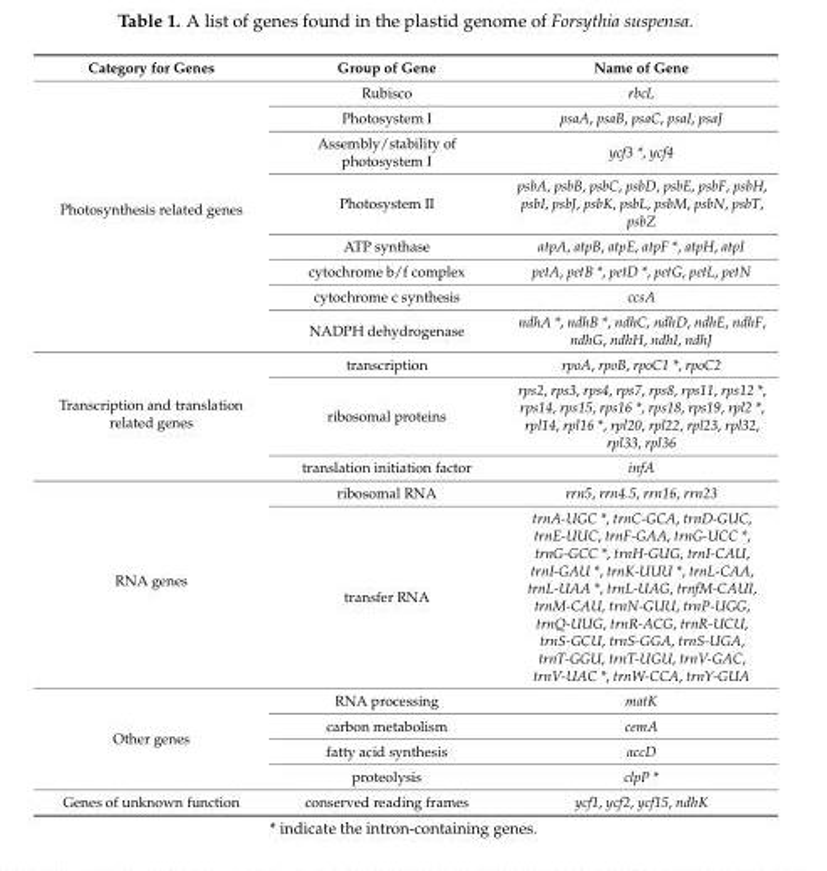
<table><thead><tr><td>Category for Genes</td><td>Group of Gene</td><td>Name of Gene</td></tr></thead><tbody><tr><td rowspan="8">Photosynthesis related genes</td><td>Rubisco</td><td>rbcL</td></tr><tr><td>Photosystem I</td><td>psaA, psaB, psaC, psaI, psaJ</td></tr><tr><td>Assembly/stability of photosystem I</td><td>ycf3 *, ycf4</td></tr><tr><td>Photosystem II</td><td>psbA, psbB, psbC, psbD, psbE, psbF, psbH, psbI, psbJ, psbK, psbL, psbM, psbN, psbT, psbZ</td></tr><tr><td>ATP synthase</td><td>atpA, atpB, atpE, atpF *, atpH, atpI</td></tr><tr><td>cytochrome b/f complex</td><td>petA, petB *, petD *, petG, petL, petN</td></tr><tr><td>cytochrome c synthesis</td><td>ccsA</td></tr><tr><td>NADPH dehydrogenase</td><td>ndhA *, ndhB *, ndhC, ndhD, ndhE, ndhF, ndhG, ndhH, ndhI, ndhJ</td></tr><tr><td rowspan="3">Transcription and translation related genes</td><td>transcription</td><td>rpoA, rpoB, rpoC1 *, rpoC2</td></tr><tr><td>ribosomal proteins</td><td>rps2, rps3, rps4, rps7, rps8, rps11, rps12 *, rps14, rps15, rps16 *, rps18, rps19, rpl2 *, rpl14, rpl16 *, rpl20, rpl22, rpl23, rpl32, rpl33, rpl36</td></tr><tr><td>translation initiation factor</td><td>infA</td></tr><tr><td rowspan="2">RNA genes</td><td>ribosomal RNA</td><td>rrn5, rrn4.5, rrn16, rrn23</td></tr><tr><td>transfer RNA</td><td>trnA-UGC *, trnC-GCA, trnD-GUC, trnE-UUC, trnF-GAA, trnG-UCC *, trnG-GCC *, trnH-GUG, trnI-CAU, trnI-GAU *, trnK-UUU *, trnL-CAA, trnL-UAA *, trnL-UAG, trnfM-CAUI, trnM-CAU, trnN-GUU, trnP-UGG, trnQ-UUG, trnR-ACG, trnR-UCU, trnS-GCU, trnS-GGA, trnS-UGA, trnT-GGU, trnT-UGU, trnV-GAC, trnV-UAC *, trnW-CCA, trnY-GUA</td></tr><tr><td rowspan="4">Other genes</td><td>RNA processing</td><td>matK</td></tr><tr><td>carbon metabolism</td><td>cemA</td></tr><tr><td>fatty acid synthesis</td><td>accD</td></tr><tr><td>proteolysis</td><td>clpP *</td></tr><tr><td>Genes of unknown function</td><td>conserved reading frames</td><td>ycf1, ycf2, ycf15, ndhK</td></tr></tbody></table>